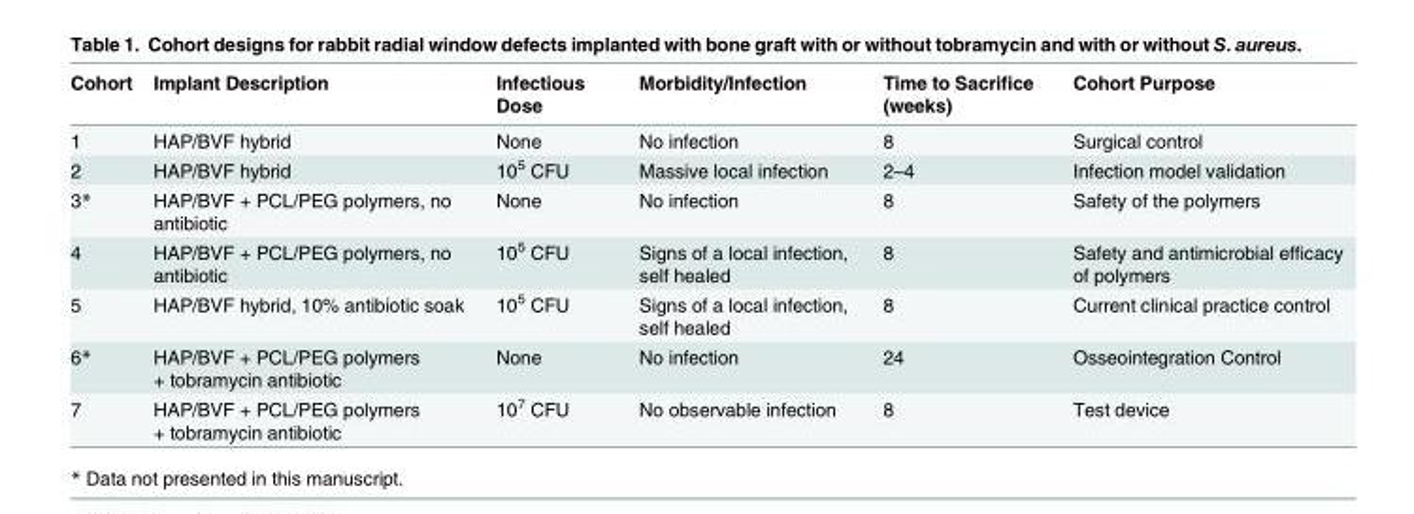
<table><thead><tr><td>Cohort</td><td>Implant Description</td><td>Infectious Dose</td><td>Morbidity/Infection</td><td>Time to Sacrifice (weeks)</td><td>Cohort Purpose</td></tr></thead><tbody><tr><td>1</td><td>HAP/BVF hybrid</td><td>None</td><td>No infection</td><td>8</td><td>Surgical control</td></tr><tr><td>2</td><td>HAP/BVF hybrid</td><td>10<sup>5</sup> CFU</td><td>Massive local infection</td><td>2–4</td><td>Infection model validation</td></tr><tr><td>3*</td><td>HAP/BVF + PCL/PEG polymers, no antibiotic</td><td>None</td><td>No infection</td><td>8</td><td>Safety of the polymers</td></tr><tr><td>4</td><td>HAP/BVF + PCL/PEG polymers, no antibiotic</td><td>10<sup>5</sup> CFU</td><td>Signs of a local infection, self healed</td><td>8</td><td>Safety and antimicrobial efficacy of polymers</td></tr><tr><td>5</td><td>HAP/BVF hybrid, 10% antibiotic soak</td><td>10<sup>5</sup> CFU</td><td>Signs of a local infection, self healed</td><td>8</td><td>Current clinical practice control</td></tr><tr><td>6*</td><td>HAP/BVF + PCL/PEG polymers + tobramycin antibiotic</td><td>None</td><td>No infection</td><td>24</td><td>Osseointegration Control</td></tr><tr><td>7</td><td>HAP/BVF + PCL/PEG polymers + tobramycin antibiotic</td><td>10<sup>7</sup> CFU</td><td>No observable infection</td><td>8</td><td>Test device</td></tr></tbody></table>